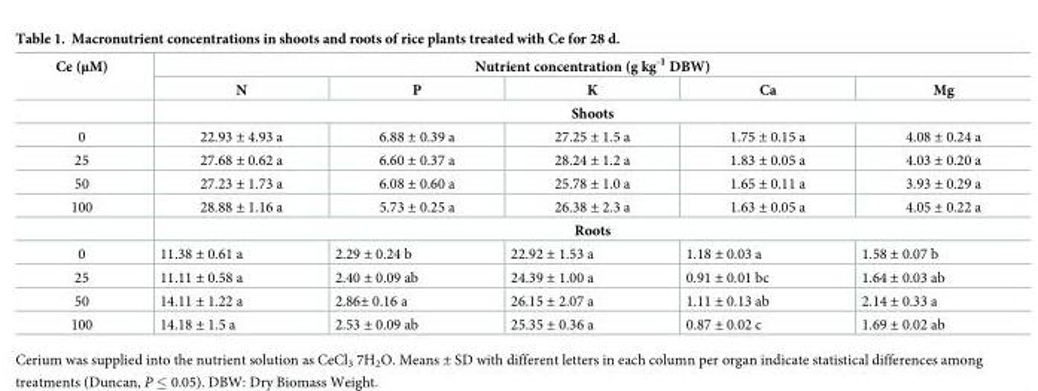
<table><thead><tr><td rowspan="2">Ce (μM)</td><td colspan="5">Nutrient concentration (g kg<sup>-1</sup> DBW)</td></tr><tr><td>N</td><td>P</td><td>K</td><td>Ca</td><td>Mg</td></tr></thead><tbody><tr><td></td><td colspan="5">Shoots</td></tr><tr><td>0</td><td>22.93 ± 4.93 a</td><td>6.88 ± 0.39 a</td><td>27.25 ± 1.5 a</td><td>1.75 ± 0.15 a</td><td>4.08 ± 0.24 a</td></tr><tr><td>25</td><td>27.68 ± 0.62 a</td><td>6.60 ± 0.37 a</td><td>28.24 ± 1.2 a</td><td>1.83 ± 0.05 a</td><td>4.03 ± 0.20 a</td></tr><tr><td>50</td><td>27.23 ± 1.73 a</td><td>6.08 ± 0.60 a</td><td>25.78 ± 1.0 a</td><td>1.65 ± 0.11 a</td><td>3.93 ± 0.29 a</td></tr><tr><td rowspan="2">100</td><td>28.88 ± 1.16 a</td><td>5.73 ± 0.25 a</td><td>26.38 ± 2.3 a</td><td>1.63 ± 0.05 a</td><td>4.05 ± 0.22 a</td></tr><tr><td colspan="5">Roots</td></tr><tr><td>0</td><td>11.38 ± 0.61 a</td><td>2.29 ± 0.24 b</td><td>22.92 ± 1.53 a</td><td>1.18 ± 0.03 a</td><td>1.58 ± 0.07 b</td></tr><tr><td>25</td><td>11.11 ± 0.58 a</td><td>2.40 ± 0.09 ab</td><td>24.39 ± 1.00 a</td><td>0.91 ± 0.01 bc</td><td>1.64 ± 0.03 ab</td></tr><tr><td>50</td><td>14.11 ± 1.22 a</td><td>2.86± 0.16 a</td><td>26.15 ± 2.07 a</td><td>1.11 ± 0.13 ab</td><td>2.14 ± 0.33 a</td></tr><tr><td>100</td><td>14.18 ± 1.5 a</td><td>2.53 ± 0.09 ab</td><td>25.35 ± 0.36 a</td><td>0.87 ± 0.02 c</td><td>1.69 ± 0.02 ab</td></tr></tbody></table>